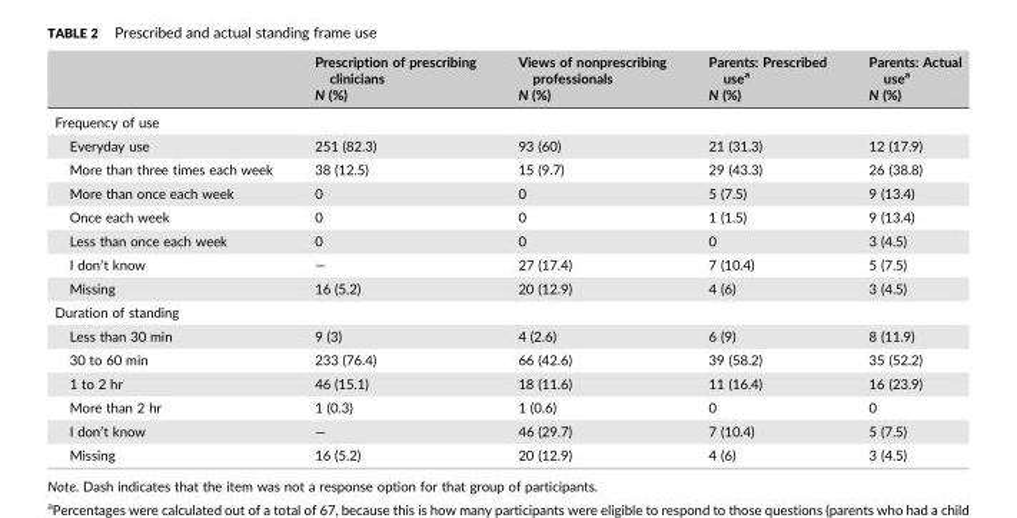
<table><thead><tr><td></td><td>Prescription of prescribing clinicians N (%)</td><td>Views of nonprescribing professionals N (%)</td><td>Parents: Prescribed use<sup>a</sup> N (%)</td><td>Parents: Actual use<sup>a</sup> N (%)</td></tr></thead><tbody><tr><td colspan="5">Frequency of use</td></tr><tr><td>Everyday use</td><td>251 (82.3)</td><td>93 (60)</td><td>21 (31.3)</td><td>12 (17.9)</td></tr><tr><td>More than three times each week</td><td>38 (12.5)</td><td>15 (9.7)</td><td>29 (43.3)</td><td>26 (38.8)</td></tr><tr><td>More than once each week</td><td>0</td><td>0</td><td>5 (7.5)</td><td>9 (13.4)</td></tr><tr><td>Once each week</td><td>0</td><td>0</td><td>1 (1.5)</td><td>9 (13.4)</td></tr><tr><td>Less than once each week</td><td>0</td><td>0</td><td>0</td><td>3 (4.5)</td></tr><tr><td>I don0t know</td><td>—</td><td>27 (17.4)</td><td>7 (10.4)</td><td>5 (7.5)</td></tr><tr><td>Missing</td><td>16 (5.2)</td><td>20 (12.9)</td><td>4 (6)</td><td>3 (4.5)</td></tr><tr><td colspan="5">Duration of standing</td></tr><tr><td>Less than 30 min</td><td>9 (3)</td><td>4 (2.6)</td><td>6 (9)</td><td>8 (11.9)</td></tr><tr><td>30 to 60 min</td><td>233 (76.4)</td><td>66 (42.6)</td><td>39 (58.2)</td><td>35 (52.2)</td></tr><tr><td>1 to 2 hr</td><td>46 (15.1)</td><td>18 (11.6)</td><td>11 (16.4)</td><td>16 (23.9)</td></tr><tr><td>More than 2 hr</td><td>1 (0.3)</td><td>1 (0.6)</td><td>0</td><td>0</td></tr><tr><td>I don0t know</td><td>—</td><td>46 (29.7)</td><td>7 (10.4)</td><td>5 (7.5)</td></tr><tr><td>Missing</td><td>16 (5.2)</td><td>20 (12.9)</td><td>4 (6)</td><td>3 (4.5)</td></tr></tbody></table>